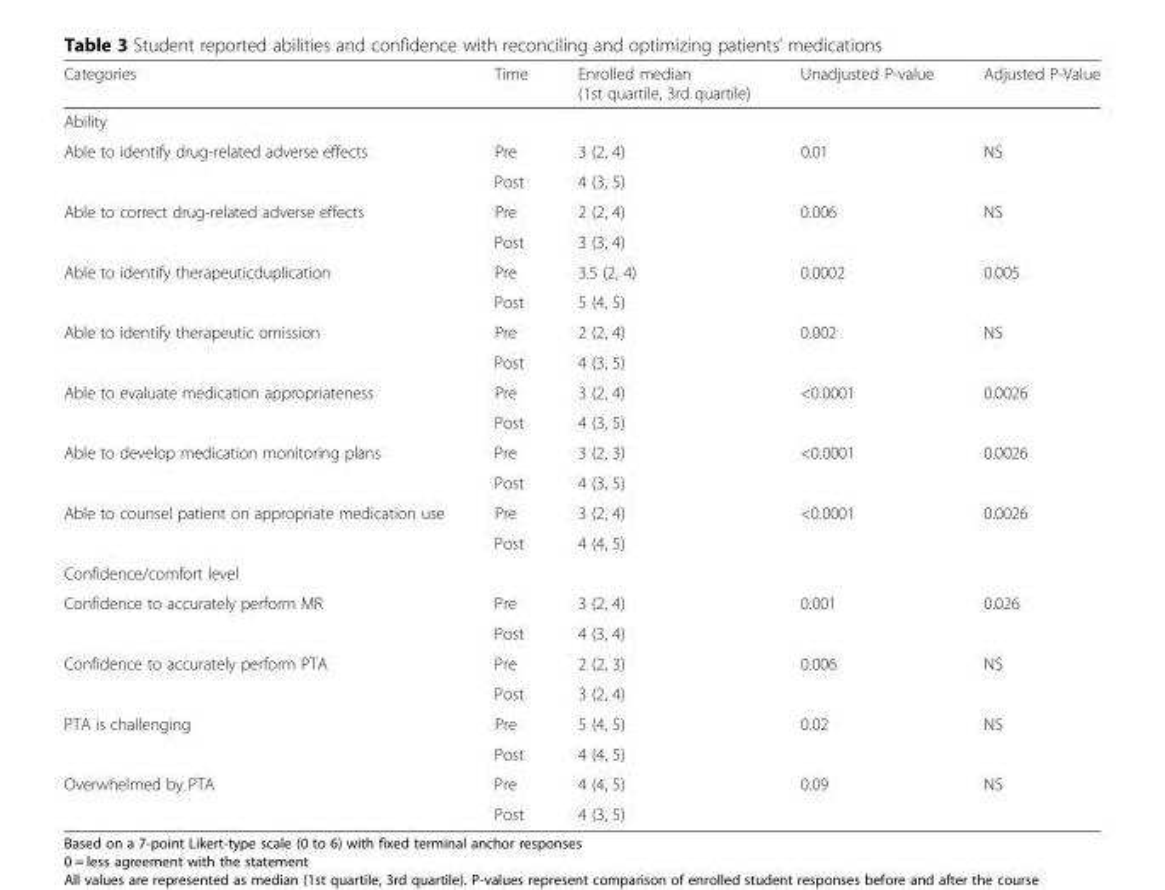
<table><thead><tr><td>Categories</td><td>Time</td><td>Enrolled median (1st quartile, 3rd quartile)</td><td>Unadjusted P-value</td><td>Adjusted P-Value</td></tr></thead><tbody><tr><td colspan="5">Ability</td></tr><tr><td rowspan="2">Able to identify drug-related adverse effects</td><td>Pre</td><td>3 (2, 4)</td><td rowspan="2">0.01</td><td rowspan="2">NS</td></tr><tr><td>Post</td><td>4 (3, 5)</td></tr><tr><td rowspan="2">Able to correct drug-related adverse effects</td><td>Pre</td><td>2 (2, 4)</td><td rowspan="2">0.006</td><td rowspan="2">NS</td></tr><tr><td>Post</td><td>3 (3, 4)</td></tr><tr><td rowspan="2">Able to identify therapeuticduplication</td><td>Pre</td><td>3.5 (2, 4)</td><td rowspan="2">0.0002</td><td rowspan="2">0.005</td></tr><tr><td>Post</td><td>5 (4, 5)</td></tr><tr><td rowspan="2">Able to identify therapeutic omission</td><td>Pre</td><td>2 (2, 4)</td><td rowspan="2">0.002</td><td rowspan="2">NS</td></tr><tr><td>Post</td><td>4 (3, 5)</td></tr><tr><td rowspan="2">Able to evaluate medication appropriateness</td><td>Pre</td><td>3 (2, 4)</td><td rowspan="2">&lt;0.0001</td><td rowspan="2">0.0026</td></tr><tr><td>Post</td><td>4 (3, 5)</td></tr><tr><td rowspan="2">Able to develop medication monitoring plans</td><td>Pre</td><td>3 (2, 3)</td><td rowspan="2">&lt;0.0001</td><td rowspan="2">0.0026</td></tr><tr><td>Post</td><td>4 (3, 5)</td></tr><tr><td rowspan="2">Able to counsel patient on appropriate medication use</td><td>Pre</td><td>3 (2, 4)</td><td rowspan="2">&lt;0.0001</td><td rowspan="2">0.0026</td></tr><tr><td>Post</td><td>4 (4, 5)</td></tr><tr><td colspan="5">Confidence/comfort level</td></tr><tr><td rowspan="2">Confidence to accurately perform MR</td><td>Pre</td><td>3 (2, 4)</td><td rowspan="2">0.001</td><td rowspan="2">0.026</td></tr><tr><td>Post</td><td>4 (3, 4)</td></tr><tr><td rowspan="2">Confidence to accurately perform PTA</td><td>Pre</td><td>2 (2, 3)</td><td rowspan="2">0.006</td><td rowspan="2">NS</td></tr><tr><td>Post</td><td>3 (2, 4)</td></tr><tr><td rowspan="2">PTA is challenging</td><td>Pre</td><td>5 (4, 5)</td><td rowspan="2">0.02</td><td rowspan="2">NS</td></tr><tr><td>Post</td><td>4 (4, 5)</td></tr><tr><td rowspan="2">Overwhelmed by PTA</td><td>Pre</td><td>4 (4, 5)</td><td rowspan="2">0.09</td><td rowspan="2">NS</td></tr><tr><td>Post</td><td>4 (3, 5)</td></tr></tbody></table>